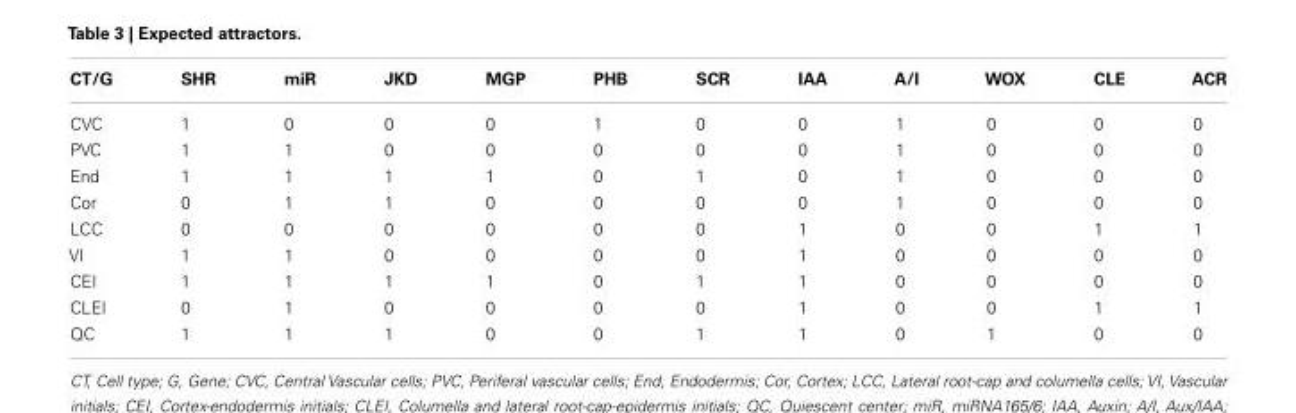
<table><thead><tr><td>CT/G</td><td>SHR</td><td>miR</td><td>JKD</td><td>MGP</td><td>PHB</td><td>SCR</td><td>IAA</td><td>A/I</td><td>WOX</td><td>CLE</td><td>ACR</td></tr></thead><tbody><tr><td>CVC</td><td>1</td><td>0</td><td>0</td><td>0</td><td>1</td><td>0</td><td>0</td><td>1</td><td>0</td><td>0</td><td>0</td></tr><tr><td>PVC</td><td>1</td><td>1</td><td>0</td><td>0</td><td>0</td><td>0</td><td>0</td><td>1</td><td>0</td><td>0</td><td>0</td></tr><tr><td>End</td><td>1</td><td>1</td><td>1</td><td>1</td><td>0</td><td>1</td><td>0</td><td>1</td><td>0</td><td>0</td><td>0</td></tr><tr><td>Cor</td><td>0</td><td>1</td><td>1</td><td>0</td><td>0</td><td>0</td><td>0</td><td>1</td><td>0</td><td>0</td><td>0</td></tr><tr><td>LCC</td><td>0</td><td>0</td><td>0</td><td>0</td><td>0</td><td>0</td><td>1</td><td>0</td><td>0</td><td>1</td><td>1</td></tr><tr><td>VI</td><td>1</td><td>1</td><td>0</td><td>0</td><td>0</td><td>0</td><td>1</td><td>0</td><td>0</td><td>0</td><td>0</td></tr><tr><td>CEI</td><td>1</td><td>1</td><td>1</td><td>1</td><td>0</td><td>1</td><td>1</td><td>0</td><td>0</td><td>0</td><td>0</td></tr><tr><td>CLEI</td><td>0</td><td>1</td><td>0</td><td>0</td><td>0</td><td>0</td><td>1</td><td>0</td><td>0</td><td>1</td><td>1</td></tr><tr><td>QC</td><td>1</td><td>1</td><td>1</td><td>0</td><td>0</td><td>1</td><td>1</td><td>0</td><td>1</td><td>0</td><td>0</td></tr></tbody></table>